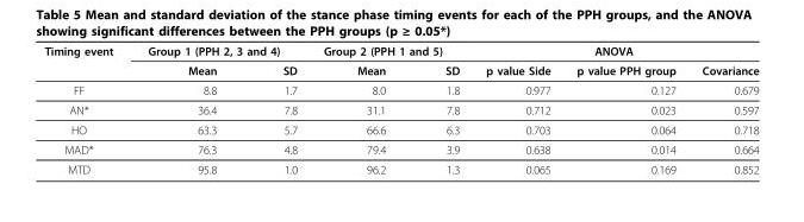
<table><thead><tr><td rowspan="2">Timing event</td><td colspan="2">Group 1 (PPH 2, 3 and 4)</td><td colspan="2">Group 2 (PPH 1 and 5)</td><td colspan="3">ANOVA</td></tr><tr><td>Mean</td><td>SD</td><td>Mean</td><td>SD</td><td>p value Side</td><td>p value PPH group</td><td>Covariance</td></tr></thead><tbody><tr><td>FF</td><td>8.8</td><td>1.7</td><td>8.0</td><td>1.8</td><td>0.977</td><td>0.127</td><td>0.679</td></tr><tr><td>AN*</td><td>36.4</td><td>7.8</td><td>31.1</td><td>7.8</td><td>0.712</td><td>0.023</td><td>0.597</td></tr><tr><td>HO</td><td>63.3</td><td>5.7</td><td>66.6</td><td>6.3</td><td>0.703</td><td>0.064</td><td>0.718</td></tr><tr><td>MAD*</td><td>76.3</td><td>4.8</td><td>79.4</td><td>3.9</td><td>0.638</td><td>0.014</td><td>0.664</td></tr><tr><td>MTD</td><td>95.8</td><td>1.0</td><td>96.2</td><td>1.3</td><td>0.065</td><td>0.169</td><td>0.852</td></tr></tbody></table>